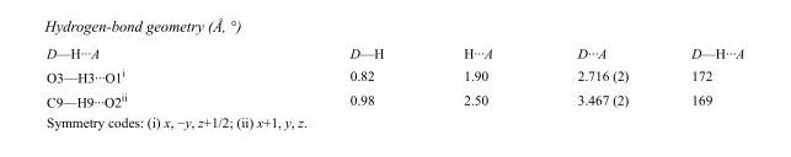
<table><tbody><tr><td>D—H···A</td><td>D—H</td><td>H···A</td><td>D···A</td><td>D—H···A</td></tr><tr><td>O3—H3···O1<sup>i</sup></td><td>0.82</td><td>1.90</td><td>2.716 (2)</td><td>172</td></tr><tr><td>C9—H9···O2<sup>ii</sup></td><td>0.98</td><td>2.50</td><td>3.467 (2)</td><td>169</td></tr></tbody></table>